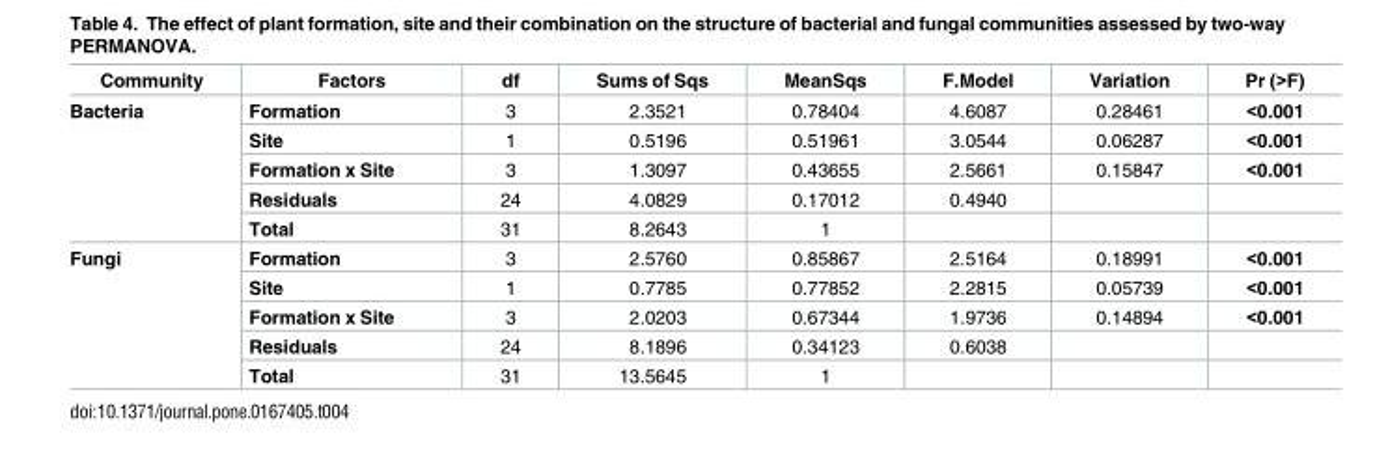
<table><thead><tr><td>Community</td><td>Factors</td><td>df</td><td>Sums of Sqs</td><td>MeanSqs</td><td>F.Model</td><td>Variation</td><td>Pr (&gt;F)</td></tr></thead><tbody><tr><td rowspan="5">Bacteria</td><td>Formation</td><td>3</td><td>2.3521</td><td>0.78404</td><td>4.6087</td><td>0.28461</td><td>&lt;0.001</td></tr><tr><td>Site</td><td>1</td><td>0.5196</td><td>0.51961</td><td>3.0544</td><td>0.06287</td><td>&lt;0.001</td></tr><tr><td>Formation x Site</td><td>3</td><td>1.3097</td><td>0.43655</td><td>2.5661</td><td>0.15847</td><td>&lt;0.001</td></tr><tr><td>Residuals</td><td>24</td><td>4.0829</td><td>0.17012</td><td>0.4940</td><td></td><td></td></tr><tr><td>Total</td><td>31</td><td>8.2643</td><td>1</td><td></td><td></td><td></td></tr><tr><td rowspan="5">Fungi</td><td>Formation</td><td>3</td><td>2.5760</td><td>0.85867</td><td>2.5164</td><td>0.18991</td><td>&lt;0.001</td></tr><tr><td>Site</td><td>1</td><td>0.7785</td><td>0.77852</td><td>2.2815</td><td>0.05739</td><td>&lt;0.001</td></tr><tr><td>Formation x Site</td><td>3</td><td>2.0203</td><td>0.67344</td><td>1.9736</td><td>0.14894</td><td>&lt;0.001</td></tr><tr><td>Residuals</td><td>24</td><td>8.1896</td><td>0.34123</td><td>0.6038</td><td></td><td></td></tr><tr><td>Total</td><td>31</td><td>13.5645</td><td>1</td><td></td><td></td><td></td></tr></tbody></table>